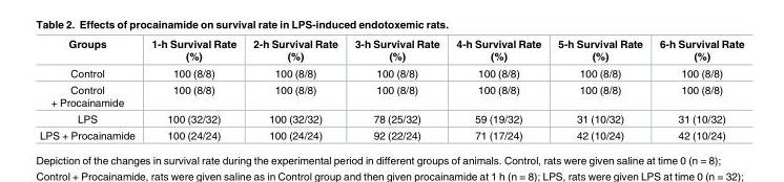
<table><thead><tr><td>Groups</td><td>1-h Survival Rate (%)</td><td>2-h Survival Rate (%)</td><td>3-h Survival Rate (%)</td><td>4-h Survival Rate (%)</td><td>5-h Survival Rate (%)</td><td>6-h Survival Rate (%)</td></tr></thead><tbody><tr><td>Control</td><td>100 (8/8)</td><td>100 (8/8)</td><td>100 (8/8)</td><td>100 (8/8)</td><td>100 (8/8)</td><td>100 (8/8)</td></tr><tr><td>Control + Procainamide</td><td>100 (8/8)</td><td>100 (8/8)</td><td>100 (8/8)</td><td>100 (8/8)</td><td>100 (8/8)</td><td>100 (8/8)</td></tr><tr><td>LPS</td><td>100 (32/32)</td><td>100 (32/32)</td><td>78 (25/32)</td><td>59 (19/32)</td><td>31 (10/32)</td><td>31 (10/32)</td></tr><tr><td>LPS + Procainamide</td><td>100 (24/24)</td><td>100 (24/24)</td><td>92 (22/24)</td><td>71 (17/24)</td><td>42 (10/24)</td><td>42 (10/24)</td></tr></tbody></table>